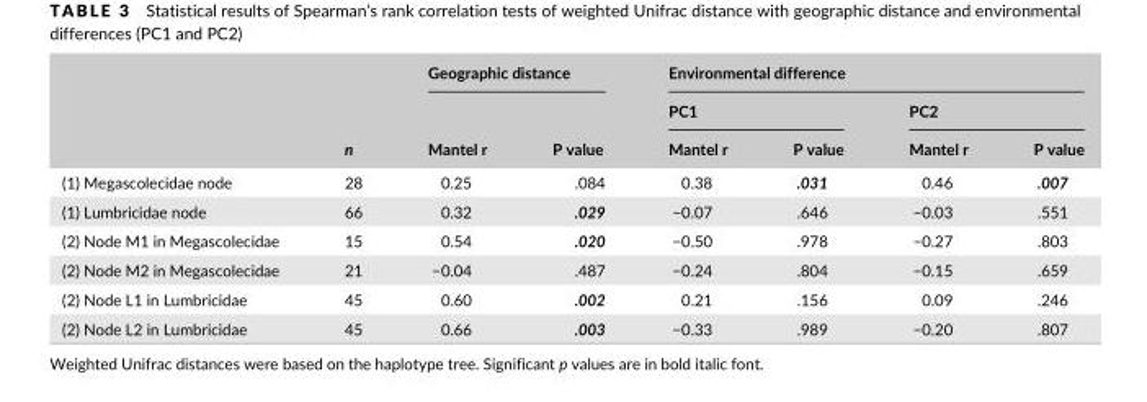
<table><thead><tr><td rowspan="3"></td><td rowspan="3">n</td><td colspan="2">Geographic distance</td><td colspan="4">Environmental difference</td></tr><tr><td rowspan="2">Mantel r</td><td rowspan="2">P value</td><td colspan="2">PC1</td><td colspan="2">PC2</td></tr><tr><td>Mantel r</td><td>P value</td><td>Mantel r</td><td>P value</td></tr></thead><tbody><tr><td>(1) Megascolecidae node</td><td>28</td><td>0.25</td><td>.084</td><td>0.38</td><td>.031</td><td>0.46</td><td>.007</td></tr><tr><td>(1) Lumbricidae node</td><td>66</td><td>0.32</td><td>.029</td><td>−0.07</td><td>.646</td><td>−0.03</td><td>.551</td></tr><tr><td>(2) Node M1 in Megascolecidae</td><td>15</td><td>0.54</td><td>.020</td><td>−0.50</td><td>.978</td><td>−0.27</td><td>.803</td></tr><tr><td>(2) Node M2 in Megascolecidae</td><td>21</td><td>−0.04</td><td>.487</td><td>−0.24</td><td>.804</td><td>−0.15</td><td>.659</td></tr><tr><td>(2) Node L1 in Lumbricidae</td><td>45</td><td>0.60</td><td>.002</td><td>0.21</td><td>.156</td><td>0.09</td><td>.246</td></tr><tr><td>(2) Node L2 in Lumbricidae</td><td>45</td><td>0.66</td><td>.003</td><td>−0.33</td><td>.989</td><td>−0.20</td><td>.807</td></tr></tbody></table>